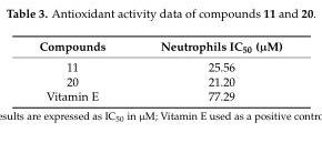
<table><thead><tr><td>Compounds</td><td>Neutrophils IC<sub>50</sub> (µM)</td></tr></thead><tbody><tr><td>11</td><td>25.56</td></tr><tr><td>20</td><td>21.20</td></tr><tr><td>Vitamin E</td><td>77.29</td></tr></tbody></table>